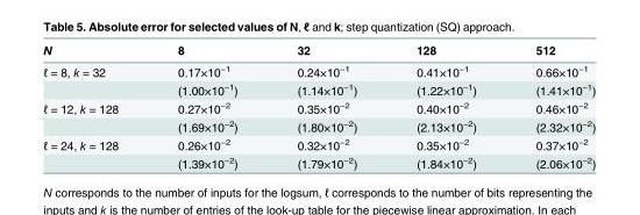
<table><thead><tr><td>N</td><td>8</td><td>32</td><td>128</td><td>512</td></tr></thead><tbody><tr><td rowspan="2">ℓ = 8, k = 32</td><td>0.17×10<sup>−1</sup></td><td>0.24×10<sup>−1</sup></td><td>0.41×10<sup>−1</sup></td><td>0.66×10<sup>−1</sup></td></tr><tr><td>(1.00×10<sup>−1</sup>)</td><td>(1.14×10<sup>−1</sup>)</td><td>(1.22×10<sup>−1</sup>)</td><td>(1.41×10<sup>−1</sup>)</td></tr><tr><td rowspan="2">ℓ = 12, k = 128</td><td>0.27×10<sup>−2</sup></td><td>0.35×10<sup>−2</sup></td><td>0.40×10<sup>−2</sup></td><td>0.46×10<sup>−2</sup></td></tr><tr><td>(1.69×10<sup>−2</sup>)</td><td>(1.80×10<sup>−2</sup>)</td><td>(2.13×10<sup>−2</sup>)</td><td>(2.32×10<sup>−2</sup>)</td></tr><tr><td rowspan="2">ℓ = 24, k = 128</td><td>0.26×10<sup>−2</sup></td><td>0.32×10<sup>−2</sup></td><td>0.35×10<sup>−2</sup></td><td>0.37×10<sup>−2</sup></td></tr><tr><td>(1.39×10<sup>−2</sup>)</td><td>(1.79×10<sup>−2</sup>)</td><td>(1.84×10<sup>−2</sup>)</td><td>(2.06×10<sup>−2</sup>)</td></tr></tbody></table>